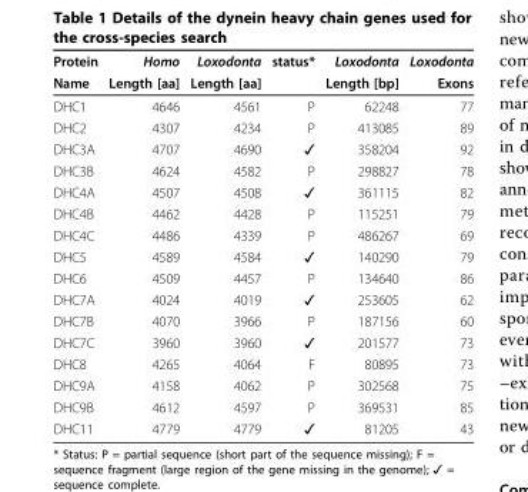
<table><thead><tr><td rowspan="2">Protein Name</td><td rowspan="2">Homo Length [aa]</td><td rowspan="2">Loxodonta Length [aa]</td><td rowspan="2">status*</td><td rowspan="2">Loxodonta Length [bp]</td><td rowspan="2">Loxodonta Exons</td></tr><tr></tr></thead><tbody><tr><td>DHC1</td><td>4646</td><td>4561</td><td>P</td><td>62248</td><td>77</td></tr><tr><td>DHC2</td><td>4307</td><td>4234</td><td>P</td><td>413085</td><td>89</td></tr><tr><td>DHC3A</td><td>4707</td><td>4690</td><td>✓</td><td>358204</td><td>92</td></tr><tr><td>DHC3B</td><td>4624</td><td>4582</td><td>P</td><td>298827</td><td>78</td></tr><tr><td>DHC4A</td><td>4507</td><td>4508</td><td>✓</td><td>361115</td><td>82</td></tr><tr><td>DHC4B</td><td>4462</td><td>4428</td><td>P</td><td>115251</td><td>79</td></tr><tr><td>DHC4C</td><td>4486</td><td>4339</td><td>P</td><td>486267</td><td>69</td></tr><tr><td>DHC5</td><td>4589</td><td>4584</td><td>✓</td><td>140290</td><td>79</td></tr><tr><td>DHC6</td><td>4509</td><td>4457</td><td>P</td><td>134640</td><td>86</td></tr><tr><td>DHC7A</td><td>4024</td><td>4019</td><td>✓</td><td>253605</td><td>62</td></tr><tr><td>DHC7B</td><td>4070</td><td>3966</td><td>P</td><td>187156</td><td>60</td></tr><tr><td>DHC7C</td><td>3960</td><td>3960</td><td>✓</td><td>201577</td><td>73</td></tr><tr><td>DHC8</td><td>4265</td><td>4064</td><td>F</td><td>80895</td><td>73</td></tr><tr><td>DHC9A</td><td>4158</td><td>4062</td><td>P</td><td>302568</td><td>75</td></tr><tr><td>DHC9B</td><td>4612</td><td>4597</td><td>P</td><td>369531</td><td>85</td></tr><tr><td>DHC11</td><td>4779</td><td>4779</td><td>✓</td><td>81205</td><td>43</td></tr></tbody></table>